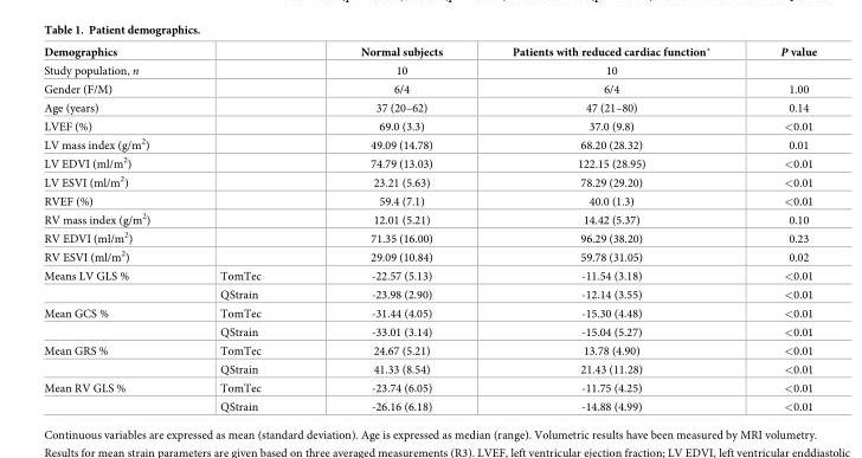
<table><thead><tr><td>Demographics</td><td></td><td>Normal subjects</td><td>Patients with reduced cardiac function*</td><td>P value</td></tr></thead><tbody><tr><td>Study population, n</td><td></td><td>10</td><td>10</td><td></td></tr><tr><td>Gender (F/M)</td><td></td><td>6/4</td><td>6/4</td><td>1.00</td></tr><tr><td>Age (years)</td><td></td><td>37 (20–62)</td><td>47 (21–80)</td><td>0.14</td></tr><tr><td>LVEF (%)</td><td></td><td>69.0 (3.3)</td><td>37.0 (9.8)</td><td>&lt;0.01</td></tr><tr><td>LV mass index (g/m<sup>2</sup>)</td><td></td><td>49.09 (14.78)</td><td>68.20 (28.32)</td><td>0.01</td></tr><tr><td>LV EDVI (ml/m<sup>2</sup>)</td><td></td><td>74.79 (13.03)</td><td>122.15 (28.95)</td><td>&lt;0.01</td></tr><tr><td>LV ESVI (ml/m<sup>2</sup>)</td><td></td><td>23.21 (5.63)</td><td>78.29 (29.20)</td><td>&lt;0.01</td></tr><tr><td>RVEF (%)</td><td></td><td>59.4 (7.1)</td><td>40.0 (1.3)</td><td>&lt;0.01</td></tr><tr><td>RV mass index (g/m<sup>2</sup>)</td><td></td><td>12.01 (5.21)</td><td>14.42 (5.37)</td><td>0.10</td></tr><tr><td>RV EDVI (ml/m<sup>2</sup>)</td><td></td><td>71.35 (16.00)</td><td>96.29 (38.20)</td><td>0.23</td></tr><tr><td>RV ESVI (ml/m<sup>2</sup>)</td><td></td><td>29.09 (10.84)</td><td>59.78 (31.05)</td><td>0.02</td></tr><tr><td rowspan="2">Means LV GLS %</td><td>TomTec</td><td>-22.57 (5.13)</td><td>-11.54 (3.18)</td><td>&lt;0.01</td></tr><tr><td>QStrain</td><td>-23.98 (2.90)</td><td>-12.14 (3.55)</td><td>&lt;0.01</td></tr><tr><td rowspan="2">Mean GCS %</td><td>TomTec</td><td>-31.44 (4.05)</td><td>-15.30 (4.48)</td><td>&lt;0.01</td></tr><tr><td>QStrain</td><td>-33.01 (3.14)</td><td>-15.04 (5.27)</td><td>&lt;0.01</td></tr><tr><td rowspan="2">Mean GRS %</td><td>TomTec</td><td>24.67 (5.21)</td><td>13.78 (4.90)</td><td>&lt;0.01</td></tr><tr><td>QStrain</td><td>41.33 (8.54)</td><td>21.43 (11.28)</td><td>&lt;0.01</td></tr><tr><td rowspan="2">Mean RV GLS %</td><td>TomTec</td><td>-23.74 (6.05)</td><td>-11.75 (4.25)</td><td>&lt;0.01</td></tr><tr><td>QStrain</td><td>-26.16 (6.18)</td><td>-14.88 (4.99)</td><td>&lt;0.01</td></tr></tbody></table>